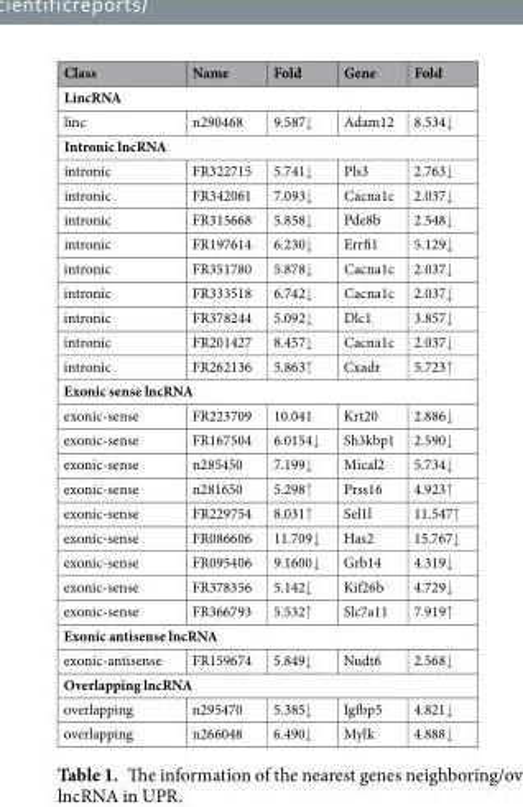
<table><thead><tr><td>Class</td><td>Name</td><td>Fold</td><td>Gene</td><td>Fold</td></tr></thead><tbody><tr><td colspan="5">LincRNA</td></tr><tr><td>linc</td><td>n290468</td><td>9.587↓</td><td>Adam12</td><td>8.534↓</td></tr><tr><td colspan="5">Intronic lncRNA</td></tr><tr><td>intronic</td><td>FR322715</td><td>5.741↓</td><td>Pls3</td><td>2.763↓</td></tr><tr><td>intronic</td><td>FR342061</td><td>7.093↓</td><td>Cacna1c</td><td>2.037↓</td></tr><tr><td>intronic</td><td>FR315668</td><td>5.858↓</td><td>Pde8b</td><td>2.548↓</td></tr><tr><td>intronic</td><td>FR197614</td><td>6.230↓</td><td>Errfi1</td><td>5.129↓</td></tr><tr><td>intronic</td><td>FR351780</td><td>5.878↓</td><td>Cacna1c</td><td>2.037↓</td></tr><tr><td>intronic</td><td>FR333518</td><td>6.742↓</td><td>Cacna1c</td><td>2.037↓</td></tr><tr><td>intronic</td><td>FR378244</td><td>5.092↓</td><td>Dlc1</td><td>3.857↓</td></tr><tr><td>intronic</td><td>FR201427</td><td>8.457↓</td><td>Cacna1c</td><td>2.037↓</td></tr><tr><td>intronic</td><td>FR262136</td><td>5.863↑</td><td>Cxadr</td><td>5.723↑</td></tr><tr><td colspan="5">Exonic sense lncRNA</td></tr><tr><td>exonic-sense</td><td>FR223709</td><td>10.041</td><td>Krt20</td><td>2.886↓</td></tr><tr><td>exonic-sense</td><td>FR167504</td><td>6.0154↓</td><td>Sh3kbp1</td><td>2.590↓</td></tr><tr><td>exonic-sense</td><td>n285450</td><td>7.199↓</td><td>Mical2</td><td>5.734↓</td></tr><tr><td>exonic-sense</td><td>n281650</td><td>5.298↑</td><td>Prss16</td><td>4.923↑</td></tr><tr><td>exonic-sense</td><td>FR229754</td><td>8.031↑</td><td>Sel1l</td><td>11.547↑</td></tr><tr><td>exonic-sense</td><td>FR086606</td><td>11.709↓</td><td>Has2</td><td>15.767↓</td></tr><tr><td>exonic-sense</td><td>FR095406</td><td>9.1600↓</td><td>Grb14</td><td>4.319↓</td></tr><tr><td>exonic-sense</td><td>FR378356</td><td>5.142↓</td><td>Kif26b</td><td>4.729↓</td></tr><tr><td>exonic-sense</td><td>FR366793</td><td>5.532↑</td><td>Slc7a11</td><td>7.919↑</td></tr><tr><td colspan="5">Exonic antisense lncRNA</td></tr><tr><td>exonic-antisense</td><td>FR159674</td><td>5.849↓</td><td>Nudt6</td><td>2.568↓</td></tr><tr><td colspan="5">Overlapping lncRNA</td></tr><tr><td>overlapping</td><td>n295470</td><td>5.385↓</td><td>Igfbp5</td><td>4.821↓</td></tr><tr><td>overlapping</td><td>n266048</td><td>6.490↓</td><td>Mylk</td><td>4.888↓</td></tr></tbody></table>